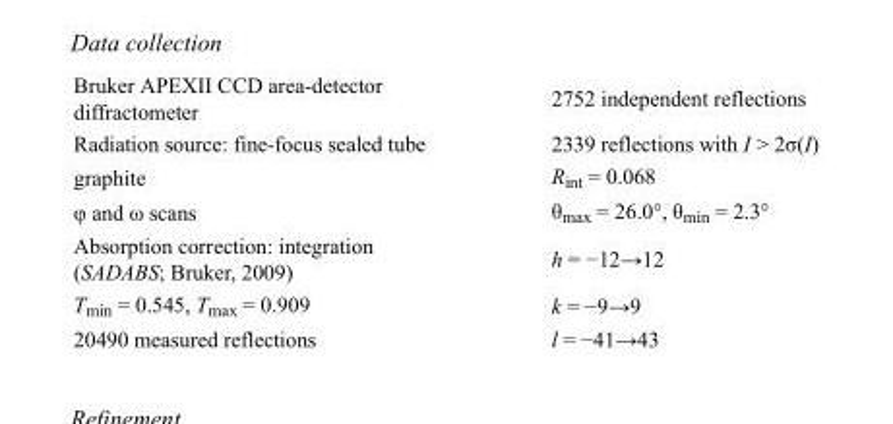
<table><tbody><tr><td>Bruker APEXII CCD area-detector diffractometer</td><td>2752 independent reflections</td></tr><tr><td>Radiation source: fine-focus sealed tube</td><td>2339 reflections with I &gt; 2σ(I)</td></tr><tr><td>graphite</td><td>R<sub>int</sub> = 0.068</td></tr><tr><td>φ and ω scans</td><td>θ<sub>max</sub> = 26.0°, θ<sub>min</sub> = 2.3°</td></tr><tr><td>Absorption correction: integration (SADABS; Bruker, 2009)</td><td>h = −12→12</td></tr><tr><td>T<sub>min</sub> = 0.545, T<sub>max</sub> = 0.909</td><td>k = −9→9</td></tr><tr><td>20490 measured reflections</td><td>l = −41→43</td></tr></tbody></table>